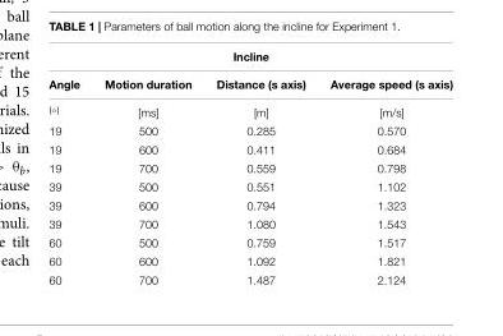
<table><thead><tr><td colspan="4">Incline</td></tr><tr><td>Angle</td><td>Motion duration</td><td>Distance (s axis)</td><td>Average speed (s axis)</td></tr></thead><tbody><tr><td>[◦]</td><td>[ms]</td><td>[m]</td><td>[m/s]</td></tr><tr><td>19</td><td>500</td><td>0.285</td><td>0.570</td></tr><tr><td>19</td><td>600</td><td>0.411</td><td>0.684</td></tr><tr><td>19</td><td>700</td><td>0.559</td><td>0.798</td></tr><tr><td>39</td><td>500</td><td>0.551</td><td>1.102</td></tr><tr><td>39</td><td>600</td><td>0.794</td><td>1.323</td></tr><tr><td>39</td><td>700</td><td>1.080</td><td>1.543</td></tr><tr><td>60</td><td>500</td><td>0.759</td><td>1.517</td></tr><tr><td>60</td><td>600</td><td>1.092</td><td>1.821</td></tr><tr><td>60</td><td>700</td><td>1.487</td><td>2.124</td></tr></tbody></table>